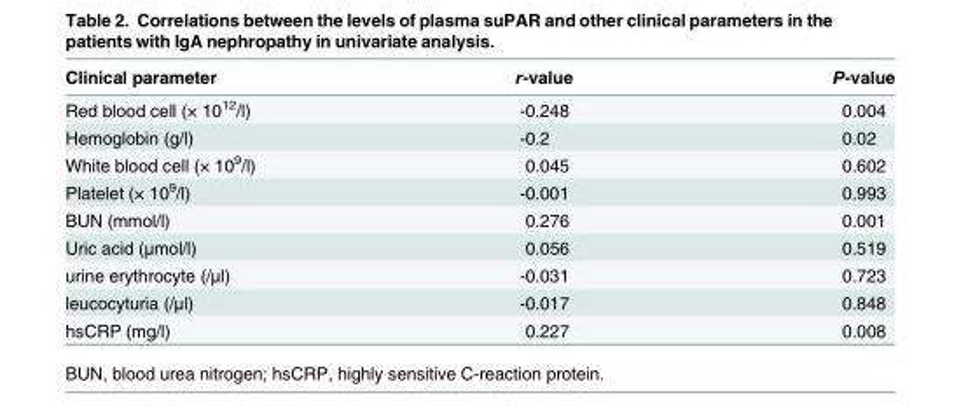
<table><thead><tr><td>Clinical parameter</td><td>r-value</td><td>P-value</td></tr></thead><tbody><tr><td>Red blood cell (× 10<sup>12</sup>/l)</td><td>-0.248</td><td>0.004</td></tr><tr><td>Hemoglobin (g/l)</td><td>-0.2</td><td>0.02</td></tr><tr><td>White blood cell (× 10<sup>9</sup>/l)</td><td>0.045</td><td>0.602</td></tr><tr><td>Platelet (× 10<sup>9</sup>/l)</td><td>-0.001</td><td>0.993</td></tr><tr><td>BUN (mmol/l)</td><td>0.276</td><td>0.001</td></tr><tr><td>Uric acid (μmol/l)</td><td>0.056</td><td>0.519</td></tr><tr><td>urine erythrocyte (/μl)</td><td>-0.031</td><td>0.723</td></tr><tr><td>leucocyturia (/μl)</td><td>-0.017</td><td>0.848</td></tr><tr><td>hsCRP (mg/l)</td><td>0.227</td><td>0.008</td></tr></tbody></table>